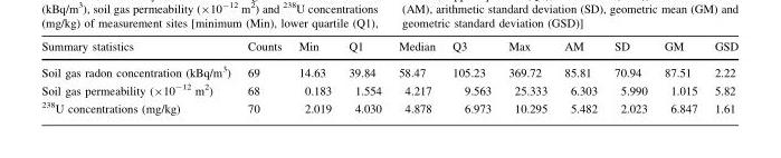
<table><thead><tr><td>Summary statistics</td><td>Counts</td><td>Min</td><td>Q1</td><td>Median</td><td>Q3</td><td>Max</td><td>AM</td><td>SD</td><td>GM</td><td>GSD</td></tr></thead><tbody><tr><td>Soil gas radon concentration (kBq/m<sup>3</sup>)</td><td>69</td><td>14.63</td><td>39.84</td><td>58.47</td><td>105.23</td><td>369.72</td><td>85.81</td><td>70.94</td><td>87.51</td><td>2.22</td></tr><tr><td>Soil gas permeability (×10<sup>-12</sup> m<sup>2</sup>)</td><td>68</td><td>0.183</td><td>1.554</td><td>4.217</td><td>9.563</td><td>25.333</td><td>6.303</td><td>5.990</td><td>1.015</td><td>5.82</td></tr><tr><td><sup>238</sup>U concentrations (mg/kg)</td><td>70</td><td>2.019</td><td>4.030</td><td>4.878</td><td>6.973</td><td>10.295</td><td>5.482</td><td>2.023</td><td>6.847</td><td>1.61</td></tr></tbody></table>